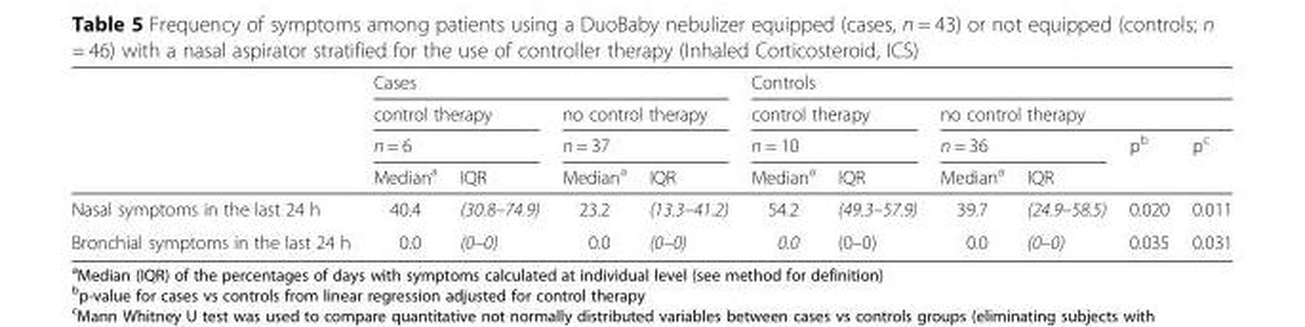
<table><thead><tr><td rowspan="4"></td><td colspan="4">Cases</td><td colspan="6">Controls</td></tr><tr><td rowspan="2" colspan="2">control therapy n = 6</td><td rowspan="2" colspan="2">no control therapy n = 37</td><td rowspan="2" colspan="2">control therapy n = 10</td><td colspan="4">no control therapy</td></tr><tr><td colspan="2">n = 36</td><td rowspan="2">p<sup>b</sup></td><td rowspan="2">p<sup>c</sup></td></tr><tr><td>Median<sup>a</sup></td><td>IQR</td><td>Median<sup>a</sup></td><td>IQR</td><td>Median<sup>a</sup></td><td>IQR</td><td>Median<sup>a</sup></td><td>IQR</td></tr></thead><tbody><tr><td>Nasal symptoms in the last 24 h</td><td>40.4</td><td>(30.8–74.9)</td><td>23.2</td><td>(13.3–41.2)</td><td>54.2</td><td>(49.3–57.9)</td><td>39.7</td><td>(24.9–58.5)</td><td>0.020</td><td>0.011</td></tr><tr><td>Bronchial symptoms in the last 24 h</td><td>0.0</td><td>(0–0)</td><td>0.0</td><td>(0–0)</td><td>0.0</td><td>(0–0)</td><td>0.0</td><td>(0–0)</td><td>0.035</td><td>0.031</td></tr></tbody></table>